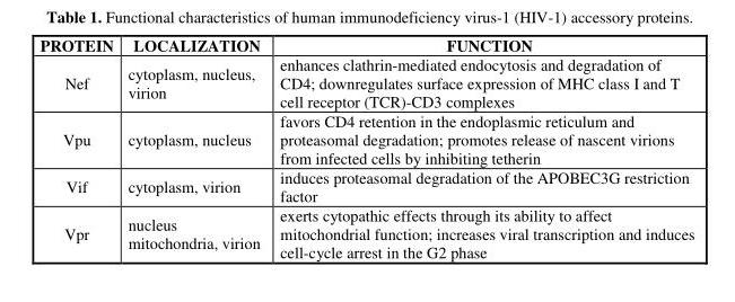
<table><thead><tr><td>PROTEIN</td><td>LOCALIZATION</td><td>FUNCTION</td></tr></thead><tbody><tr><td>Nef</td><td>cytoplasm, nucleus, virion</td><td>enhances clathrin-mediated endocytosis and degradation of CD4; downregulates surface expression of MHC class I and T cell receptor (TCR)-CD3 complexes</td></tr><tr><td>Vpu</td><td>cytoplasm, nucleus</td><td>favors CD4 retention in the endoplasmic reticulum and proteasomal degradation; promotes release of nascent virions from infected cells by inhibiting tetherin</td></tr><tr><td>Vif</td><td>cytoplasm, virion</td><td>induces proteasomal degradation of the APOBEC3G restriction factor</td></tr><tr><td>Vpr</td><td>nucleus mitochondria, virion</td><td>exerts cytopathic effects through its ability to affect mitochondrial function; increases viral transcription and induces cell-cycle arrest in the G2 phase</td></tr></tbody></table>